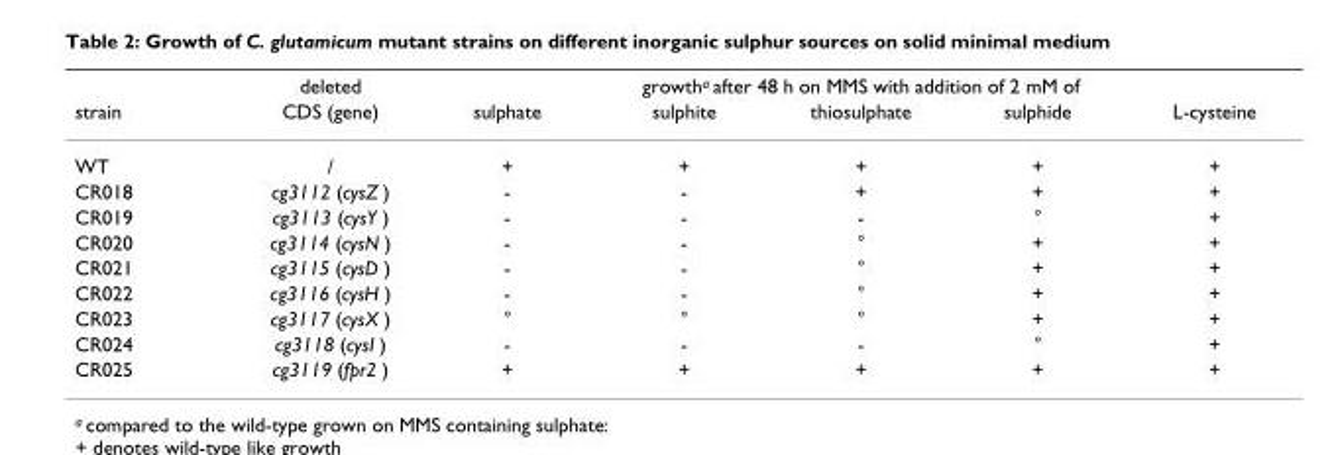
<table><thead><tr><td rowspan="2">strain</td><td rowspan="2">deleted CDS (gene)</td><td colspan="5">growth<sup>a</sup> after 48 h on MMS with addition of 2 mM of</td></tr><tr><td>sulphate</td><td>sulphite</td><td>thiosulphate</td><td>sulphide</td><td>L-cysteine</td></tr></thead><tbody><tr><td>WT</td><td>/</td><td>+</td><td>+</td><td>+</td><td>+</td><td>+</td></tr><tr><td>CR018</td><td>cg3112 (cysZ )</td><td>-</td><td>-</td><td>+</td><td>+</td><td>+</td></tr><tr><td>CR019</td><td>cg3113 (cysY )</td><td>-</td><td>-</td><td>-</td><td>°</td><td>+</td></tr><tr><td>CR020</td><td>cg3114 (cysN )</td><td>-</td><td>-</td><td>°</td><td>+</td><td>+</td></tr><tr><td>CR021</td><td>cg3115 (cysD )</td><td>-</td><td>-</td><td>°</td><td>+</td><td>+</td></tr><tr><td>CR022</td><td>cg3116 (cysH )</td><td>-</td><td>-</td><td>°</td><td>+</td><td>+</td></tr><tr><td>CR023</td><td>cg3117 (cysX )</td><td>°</td><td>°</td><td>°</td><td>+</td><td>+</td></tr><tr><td>CR024</td><td>cg3118 (cysI )</td><td>-</td><td>-</td><td>-</td><td>°</td><td>+</td></tr><tr><td>CR025</td><td>cg3119 (fpr2 )</td><td>+</td><td>+</td><td>+</td><td>+</td><td>+</td></tr></tbody></table>